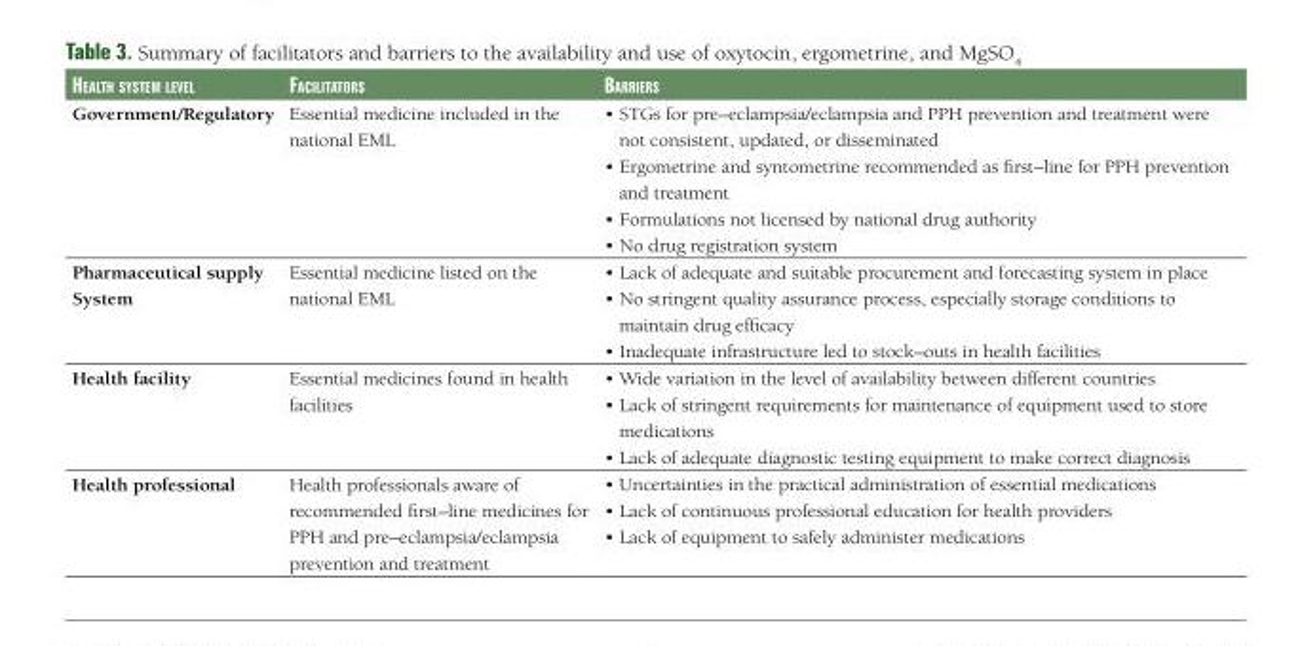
<table><thead><tr><td>health system level</td><td>facilitators</td><td>barriers</td></tr></thead><tbody><tr><td>Government/Regulatory</td><td>Essential medicine included in the national EML</td><td>• STGs for pre–eclampsia/eclampsia and PPH prevention and treatment were not consistent, updated, or disseminated • Ergometrine and syntometrine recommended as first–line for PPH prevention and treatment • Formulations not licensed by national drug authority • No drug registration system</td></tr><tr><td>Pharmaceutical supply System</td><td>Essential medicine listed on the national EML</td><td>• Lack of adequate and suitable procurement and forecasting system in place • No stringent quality assurance process, especially storage conditions to maintain drug efficacy • Inadequate infrastructure led to stock–outs in health facilities</td></tr><tr><td>Health facility</td><td>Essential medicines found in health facilities</td><td>• Wide variation in the level of availability between different countries • Lack of stringent requirements for maintenance of equipment used to store medications • Lack of adequate diagnostic testing equipment to make correct diagnosis</td></tr><tr><td>Health professional</td><td>Health professionals aware of recommended first–line medicines for PPH and pre–eclampsia/eclampsia prevention and treatment</td><td>• Uncertainties in the practical administration of essential medications • Lack of continuous professional education for health providers • Lack of equipment to safely administer medications</td></tr></tbody></table>